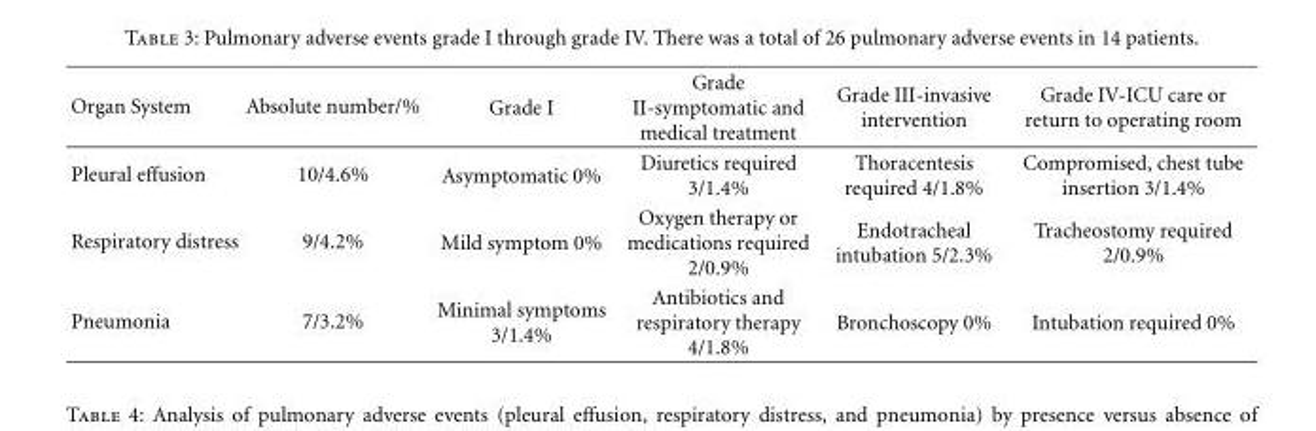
<table><thead><tr><td>Organ System</td><td>Absolute number/%</td><td>Grade I</td><td>Grade II-symptomatic and medical treatment</td><td>Grade III-invasive intervention</td><td>Grade IV-ICU care or return to operating room</td></tr></thead><tbody><tr><td>Pleural effusion</td><td>10/4.6%</td><td>Asymptomatic 0%</td><td>Diuretics required 3/1.4%</td><td>Thoracentesis required 4/1.8%</td><td>Compromised, chest tube insertion 3/1.4%</td></tr><tr><td>Respiratory distress</td><td>9/4.2%</td><td>Mild symptom 0%</td><td>Oxygen therapy or medications required 2/0.9%</td><td>Endotracheal intubation 5/2.3%</td><td>Tracheostomy required 2/0.9%</td></tr><tr><td>Pneumonia</td><td>7/3.2%</td><td>Minimal symptoms 3/1.4%</td><td>Antibiotics and respiratory therapy 4/1.8%</td><td>Bronchoscopy 0%</td><td>Intubation required 0%</td></tr></tbody></table>